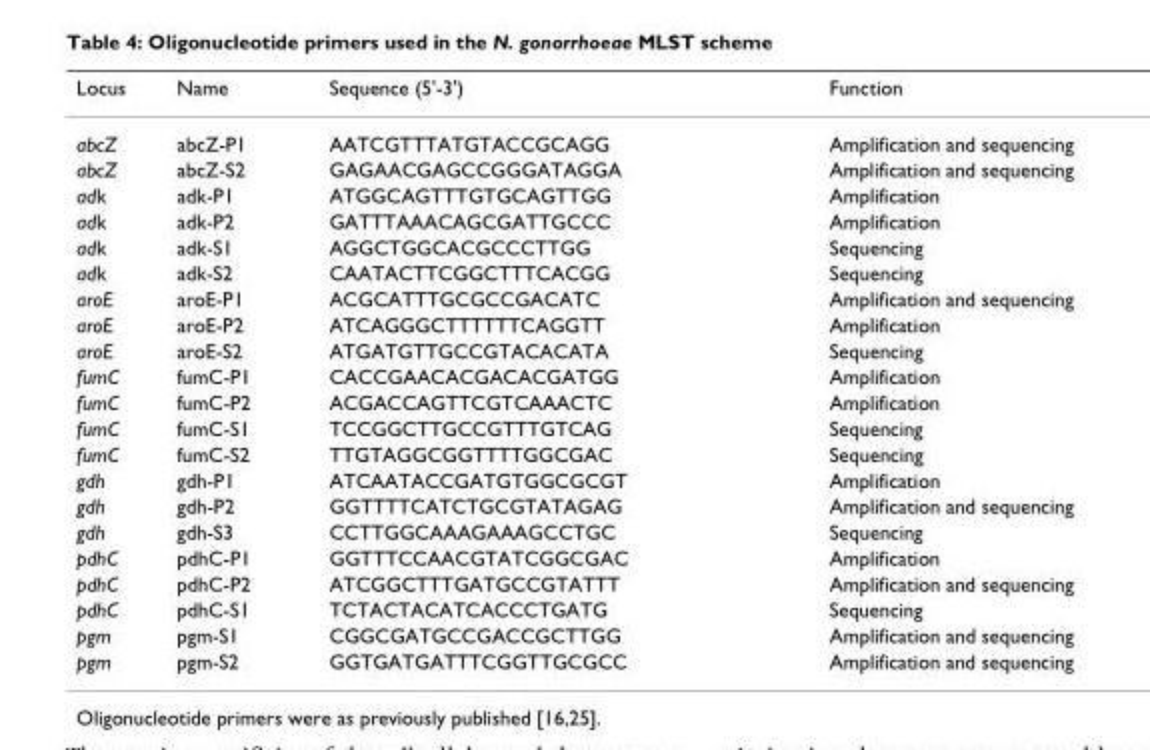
<table><thead><tr><td>Locus</td><td>Name</td><td>Sequence (5&#x27;-3&#x27;)</td><td>Function</td></tr></thead><tbody><tr><td>abcZ</td><td>abcZ-P1</td><td>AATCGTTTATGTACCGCAGG</td><td>Amplification and sequencing</td></tr><tr><td>abcZ</td><td>abcZ-S2</td><td>GAGAACGAGCCGGGATAGGA</td><td>Amplification and sequencing</td></tr><tr><td>adk</td><td>adk-P1</td><td>ATGGCAGTTTGTGCAGTTGG</td><td>Amplification</td></tr><tr><td>adk</td><td>adk-P2</td><td>GATTTAAACAGCGATTGCCC</td><td>Amplification</td></tr><tr><td>adk</td><td>adk-S1</td><td>AGGCTGGCACGCCCTTGG</td><td>Sequencing</td></tr><tr><td>adk</td><td>adk-S2</td><td>CAATACTTCGGCTTTCACGG</td><td>Sequencing</td></tr><tr><td>aroE</td><td>aroE-P1</td><td>ACGCATTTGCGCCGACATC</td><td>Amplification and sequencing</td></tr><tr><td>aroE</td><td>aroE-P2</td><td>ATCAGGGCTTTTTTCAGGTT</td><td>Amplification</td></tr><tr><td>aroE</td><td>aroE-S2</td><td>ATGATGTTGCCGTACACATA</td><td>Sequencing</td></tr><tr><td>fumC</td><td>fumC-P1</td><td>CACCGAACACGACACGATGG</td><td>Amplification</td></tr><tr><td>fumC</td><td>fumC-P2</td><td>ACGACCAGTTCGTCAAACTC</td><td>Amplification</td></tr><tr><td>fumC</td><td>fumC-S1</td><td>TCCGGCTTGCCGTTTGTCAG</td><td>Sequencing</td></tr><tr><td>fumC</td><td>fumC-S2</td><td>TTGTAGGCGGTTTTGGCGAC</td><td>Sequencing</td></tr><tr><td>gdh</td><td>gdh-P1</td><td>ATCAATACCGATGTGGCGCGT</td><td>Amplification</td></tr><tr><td>gdh</td><td>gdh-P2</td><td>GGTTTTCATCTGCGTATAGAG</td><td>Amplification and sequencing</td></tr><tr><td>gdh</td><td>gdh-S3</td><td>CCTTGGCAAAGAAAGCCTGC</td><td>Sequencing</td></tr><tr><td>pdhC</td><td>pdhC-P1</td><td>GGTTTCCAACGTATCGGCGAC</td><td>Amplification</td></tr><tr><td>pdhC</td><td>pdhC-P2</td><td>ATCGGCTTTGATGCCGTATTT</td><td>Amplification and sequencing</td></tr><tr><td>pdhC</td><td>pdhC-S1</td><td>TCTACTACATCACCCTGATG</td><td>Sequencing</td></tr><tr><td>pgm</td><td>pgm-S1</td><td>CGGCGATGCCGACCGCTTGG</td><td>Amplification and sequencing</td></tr><tr><td>pgm</td><td>pgm-S2</td><td>GGTGATGATTTCGGTTGCGCC</td><td>Amplification and sequencing</td></tr></tbody></table>